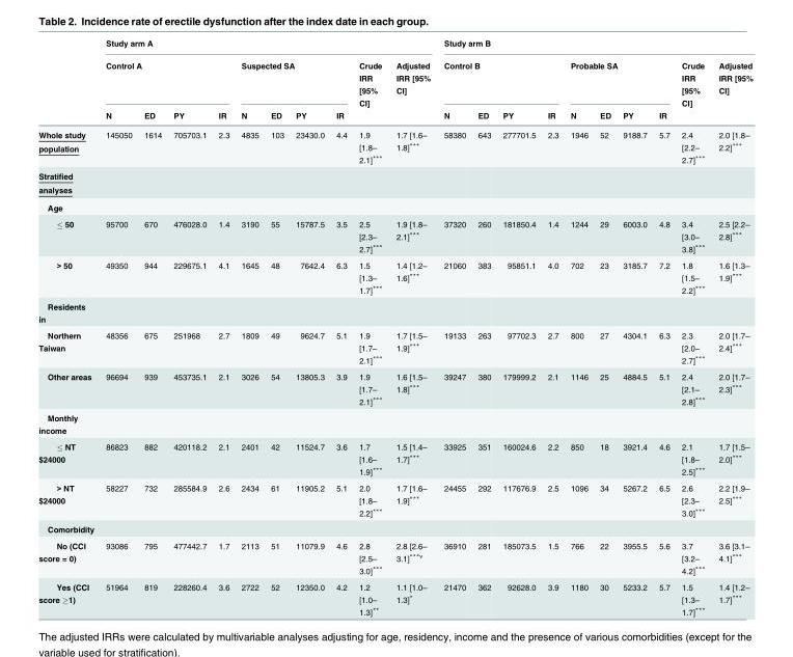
<table><thead><tr><td rowspan="3"></td><td colspan="10">Study arm A</td><td colspan="10">Study arm B</td></tr><tr><td colspan="4">Control A</td><td colspan="4">Suspected SA</td><td rowspan="2">Crude IRR [95% CI]</td><td rowspan="2">Adjusted IRR [95% CI]</td><td colspan="4">Control B</td><td colspan="4">Probable SA</td><td rowspan="2">Crude IRR [95% CI]</td><td rowspan="2">Adjusted IRR [95% CI]</td></tr><tr><td>N</td><td>ED</td><td>PY</td><td>IR</td><td>N</td><td>ED</td><td>PY</td><td>IR</td><td>N</td><td>ED</td><td>PY</td><td>IR</td><td>N</td><td>ED</td><td>PY</td><td>IR</td></tr></thead><tbody><tr><td>Whole study population</td><td>145050</td><td>1614</td><td>705703.1</td><td>2.3</td><td>4835</td><td>103</td><td>23430.0</td><td>4.4</td><td>1.9 [1.8– 2.1]***</td><td>1.7 [1.6– 1.8]***</td><td>58380</td><td>643</td><td>277701.5</td><td>2.3</td><td>1946</td><td>52</td><td>9188.7</td><td>5.7</td><td>2.4 [2.2– 2.7]***</td><td>2.0 [1.8– 2.2]***</td></tr><tr><td colspan="21">Stratified analyses</td></tr><tr><td colspan="21">Age</td></tr><tr><td>≤ 50</td><td>95700</td><td>670</td><td>476028.0</td><td>1.4</td><td>3190</td><td>55</td><td>15787.5</td><td>3.5</td><td>2.5 [2.3– 2.7]***</td><td>1.9 [1.8– 2.1]***</td><td>37320</td><td>260</td><td>181850.4</td><td>1.4</td><td>1244</td><td>29</td><td>6003.0</td><td>4.8</td><td>3.4 [3.0– 3.8]***</td><td>2.5 [2.2– 2.8]***</td></tr><tr><td>&gt; 50</td><td>49350</td><td>944</td><td>229675.1</td><td>4.1</td><td>1645</td><td>48</td><td>7642.4</td><td>6.3</td><td>1.5 [1.3– 1.7]***</td><td>1.4 [1.2– 1.6]***</td><td>21060</td><td>383</td><td>95851.1</td><td>4.0</td><td>702</td><td>23</td><td>3185.7</td><td>7.2</td><td>1.8 [1.5– 2.2]***</td><td>1.6 [1.3– 1.9]***</td></tr><tr><td colspan="21">Residents in</td></tr><tr><td>Northern Taiwan</td><td>48356</td><td>675</td><td>251968</td><td>2.7</td><td>1809</td><td>49</td><td>9624.7</td><td>5.1</td><td>1.9 [1.7– 2.1]***</td><td>1.7 [1.5– 1.9]***</td><td>19133</td><td>263</td><td>97702.3</td><td>2.7</td><td>800</td><td>27</td><td>4304.1</td><td>6.3</td><td>2.3 [2.0– 2.7]***</td><td>2.0 [1.7– 2.4]***</td></tr><tr><td>Other areas</td><td>96694</td><td>939</td><td>453735.1</td><td>2.1</td><td>3026</td><td>54</td><td>13805.3</td><td>3.9</td><td>1.9 [1.7– 2.1]***</td><td>1.6 [1.5– 1.8]***</td><td>39247</td><td>380</td><td>179999.2</td><td>2.1</td><td>1146</td><td>25</td><td>4884.5</td><td>5.1</td><td>2.4 [2.1– 2.8]***</td><td>2.0 [1.7– 2.3]***</td></tr><tr><td colspan="21">Monthly income</td></tr><tr><td>≤ NT $24000</td><td>86823</td><td>882</td><td>420118.2</td><td>2.1</td><td>2401</td><td>42</td><td>11524.7</td><td>3.6</td><td>1.7 [1.6– 1.9]***</td><td>1.5 [1.4– 1.7]***</td><td>33925</td><td>351</td><td>160024.6</td><td>2.2</td><td>850</td><td>18</td><td>3921.4</td><td>4.6</td><td>2.1 [1.8– 2.5]***</td><td>1.7 [1.5– 2.0]***</td></tr><tr><td>&gt; NT $24000</td><td>58227</td><td>732</td><td>285584.9</td><td>2.6</td><td>2434</td><td>61</td><td>11905.2</td><td>5.1</td><td>2.0 [1.8– 2.2]***</td><td>1.7 [1.6– 1.9]***</td><td>24455</td><td>292</td><td>117676.9</td><td>2.5</td><td>1096</td><td>34</td><td>5267.2</td><td>6.5</td><td>2.6 [2.3– 3.0]***</td><td>2.2 [1.9– 2.5]***</td></tr><tr><td colspan="21">Comorbidity</td></tr><tr><td>No (CCI score = 0)</td><td>93086</td><td>795</td><td>477442.7</td><td>1.7</td><td>2113</td><td>51</td><td>11079.9</td><td>4.6</td><td>2.8 [2.5– 3.0]***</td><td>2.8 [2.6– 3.1]<sup>***v</sup></td><td>36910</td><td>281</td><td>185073.5</td><td>1.5</td><td>766</td><td>22</td><td>3955.5</td><td>5.6</td><td>3.7 [3.2– 4.2]***</td><td>3.6 [3.1– 4.1]***</td></tr><tr><td>Yes (CCI score ≥1)</td><td>51964</td><td>819</td><td>228260.4</td><td>3.6</td><td>2722</td><td>52</td><td>12350.0</td><td>4.2</td><td>1.2 [1.0– 1.3]**</td><td>1.1 [1.0– 1.3]*</td><td>21470</td><td>362</td><td>92628.0</td><td>3.9</td><td>1180</td><td>30</td><td>5233.2</td><td>5.7</td><td>1.5 [1.3– 1.7]***</td><td>1.4 [1.2– 1.7]***</td></tr></tbody></table>